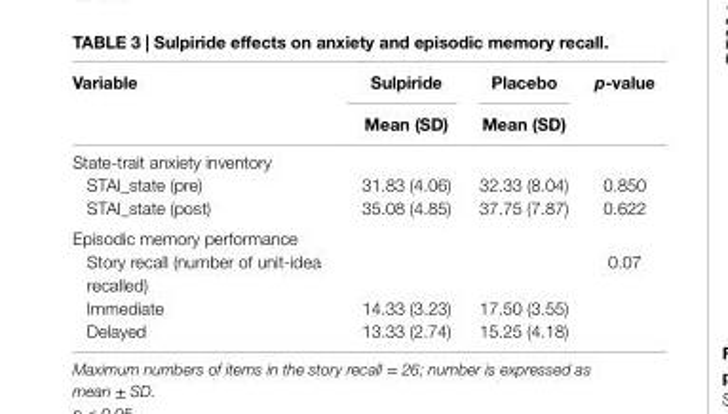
<table><thead><tr><td rowspan="2">Variable</td><td rowspan="2">sulpiride Mean (sD)</td><td rowspan="2">Placebo Mean (sD)</td><td rowspan="2">p-value</td></tr><tr></tr></thead><tbody><tr><td colspan="4">State-trait anxiety inventory</td></tr><tr><td>STAI_state (pre)</td><td>31.83 (4.06)</td><td>32.33 (8.04)</td><td>0.850</td></tr><tr><td>STAI_state (post)</td><td>35.08 (4.85)</td><td>37.75 (7.87)</td><td>0.622</td></tr><tr><td colspan="4">Episodic memory performance</td></tr><tr><td>Story recall (number of unit-idea recalled)</td><td></td><td></td><td>0.07</td></tr><tr><td>Immediate</td><td>14.33 (3.23)</td><td>17.50 (3.55)</td><td></td></tr><tr><td>Delayed</td><td>13.33 (2.74)</td><td>15.25 (4.18)</td><td></td></tr></tbody></table>